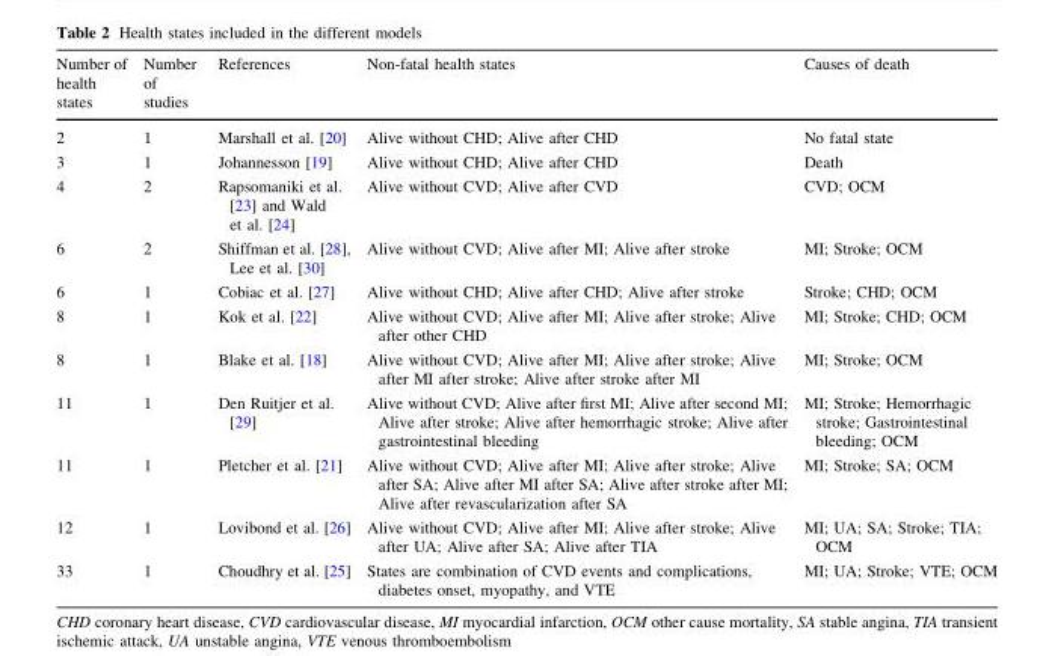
<table><thead><tr><td>Number of health states</td><td>Number of studies</td><td>References</td><td>Non-fatal health states</td><td>Causes of death</td></tr></thead><tbody><tr><td>2</td><td>1</td><td>Marshall et al. [20]</td><td>Alive without CHD; Alive after CHD</td><td>No fatal state</td></tr><tr><td>3</td><td>1</td><td>Johannesson [19]</td><td>Alive without CHD; Alive after CHD</td><td>Death</td></tr><tr><td>4</td><td>2</td><td>Rapsomaniki et al. [23] and Wald et al. [24]</td><td>Alive without CVD; Alive after CVD</td><td>CVD; OCM</td></tr><tr><td>6</td><td>2</td><td>Shiffman et al. [28], Lee et al. [30]</td><td>Alive without CVD; Alive after MI; Alive after stroke</td><td>MI; Stroke; OCM</td></tr><tr><td>6</td><td>1</td><td>Cobiac et al. [27]</td><td>Alive without CHD; Alive after CHD; Alive after stroke</td><td>Stroke; CHD; OCM</td></tr><tr><td>8</td><td>1</td><td>Kok et al. [22]</td><td>Alive without CVD; Alive after MI; Alive after stroke; Alive after other CHD</td><td>MI; Stroke; CHD; OCM</td></tr><tr><td>8</td><td>1</td><td>Blake et al. [18]</td><td>Alive without CVD; Alive after MI; Alive after stroke; Alive after MI after stroke; Alive after stroke after MI</td><td>MI; Stroke; OCM</td></tr><tr><td>11</td><td>1</td><td>Den Ruitjer et al. [29]</td><td>Alive without CVD; Alive after first MI; Alive after second MI; Alive after stroke; Alive after hemorrhagic stroke; Alive after gastrointestinal bleeding</td><td>MI; Stroke; Hemorrhagic stroke; Gastrointestinal bleeding; OCM</td></tr><tr><td>11</td><td>1</td><td>Pletcher et al. [21]</td><td>Alive without CVD; Alive after MI; Alive after stroke; Alive after SA; Alive after MI after SA; Alive after stroke after MI; Alive after revascularization after SA</td><td>MI; Stroke; SA; OCM</td></tr><tr><td>12</td><td>1</td><td>Lovibond et al. [26]</td><td>Alive without CVD; Alive after MI; Alive after stroke; Alive after UA; Alive after SA; Alive after TIA</td><td>MI; UA; SA; Stroke; TIA; OCM</td></tr><tr><td>33</td><td>1</td><td>Choudhry et al. [25]</td><td>States are combination of CVD events and complications, diabetes onset, myopathy, and VTE</td><td>MI; UA; Stroke; VTE; OCM</td></tr></tbody></table>